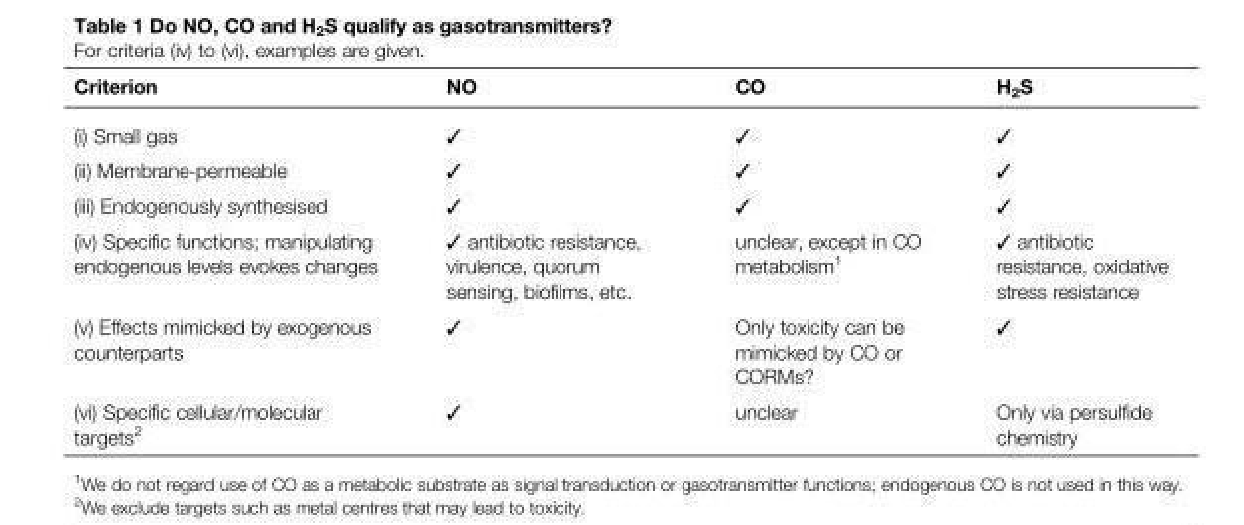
<table><thead><tr><td>Criterion</td><td>NO</td><td>CO</td><td>H<sub>2</sub>S</td></tr></thead><tbody><tr><td>(i) Small gas</td><td>✓</td><td>✓</td><td>✓</td></tr><tr><td>(ii) Membrane-permeable</td><td>✓</td><td>✓</td><td>✓</td></tr><tr><td>(iii) Endogenously synthesised</td><td>✓</td><td>✓</td><td>✓</td></tr><tr><td>(iv) Specific functions; manipulating endogenous levels evokes changes</td><td>✓ antibiotic resistance, virulence, quorum sensing, biofilms, etc.</td><td>unclear, except in CO metabolism<sup>1</sup></td><td>✓ antibiotic resistance, oxidative stress resistance</td></tr><tr><td>(v) Effects mimicked by exogenous counterparts</td><td>✓</td><td>Only toxicity can be mimicked by CO or CORMs?</td><td>✓</td></tr><tr><td>(vi) Specific cellular/molecular targets<sup>2</sup></td><td>✓</td><td>unclear</td><td>Only via persulfide chemistry</td></tr></tbody></table>